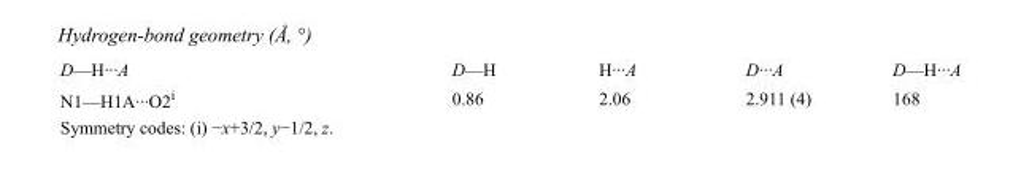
<table><tbody><tr><td>D—H···A</td><td>D—H</td><td>H···A</td><td>D···A</td><td>D—H···A</td></tr><tr><td>N1—H1A···O2<sup>i</sup></td><td>0.86</td><td>2.06</td><td>2.911 (4)</td><td>168</td></tr></tbody></table>